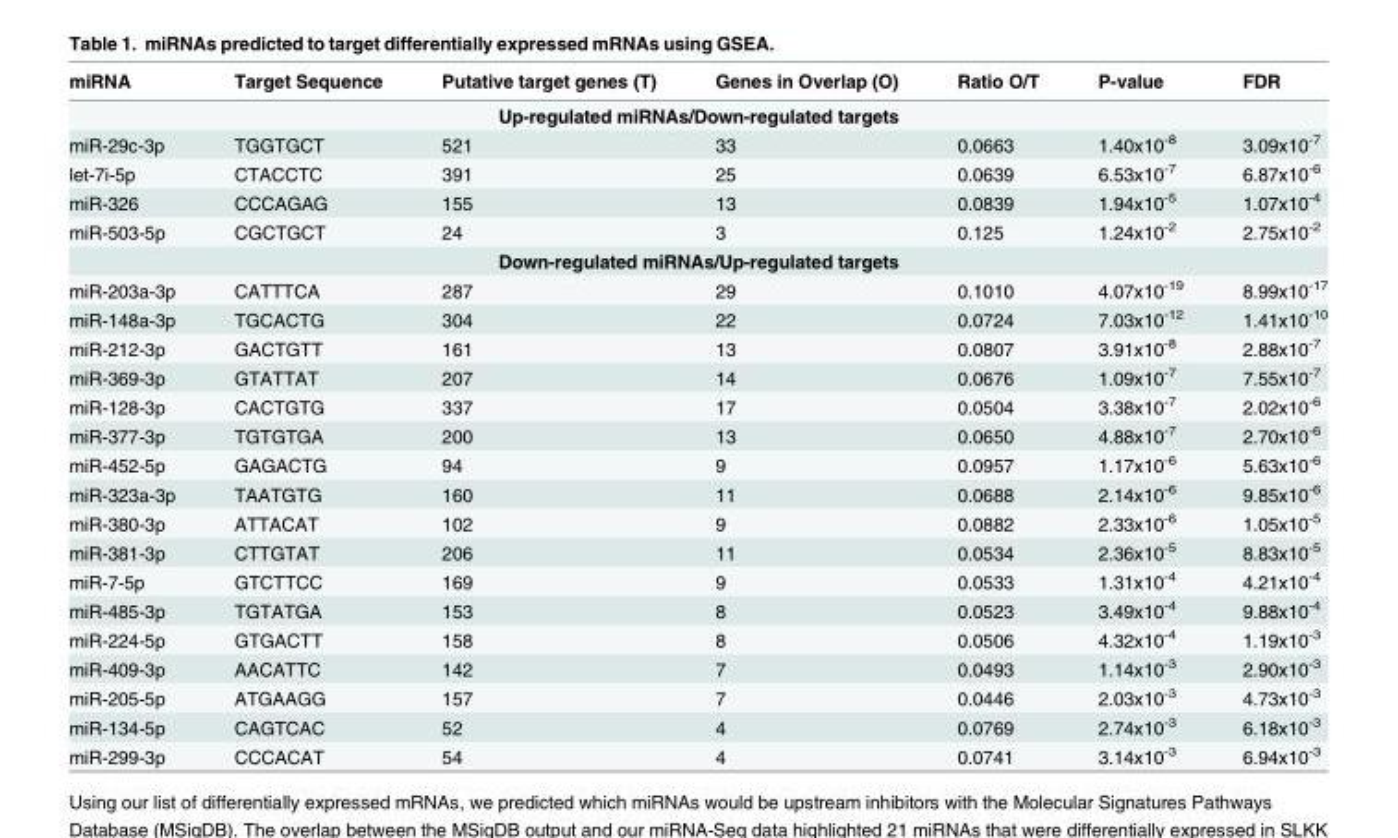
<table><thead><tr><td>miRNA</td><td>Target Sequence</td><td>Putative target genes (T)</td><td>Genes in Overlap (O)</td><td>Ratio O/T</td><td>P-value</td><td>FDR</td></tr></thead><tbody><tr><td colspan="7">Up-regulated miRNAs/Down-regulated targets</td></tr><tr><td>miR-29c-3p</td><td>TGGTGCT</td><td>521</td><td>33</td><td>0.0663</td><td>1.40x10<sup>-8</sup></td><td>3.09x10<sup>-7</sup></td></tr><tr><td>let-7i-5p</td><td>CTACCTC</td><td>391</td><td>25</td><td>0.0639</td><td>6.53x10<sup>-7</sup></td><td>6.87x10<sup>-6</sup></td></tr><tr><td>miR-326</td><td>CCCAGAG</td><td>155</td><td>13</td><td>0.0839</td><td>1.94x10<sup>-5</sup></td><td>1.07x10<sup>-4</sup></td></tr><tr><td>miR-503-5p</td><td>CGCTGCT</td><td>24</td><td>3</td><td>0.125</td><td>1.24x10<sup>-2</sup></td><td>2.75x10<sup>-2</sup></td></tr><tr><td colspan="7">Down-regulated miRNAs/Up-regulated targets</td></tr><tr><td>miR-203a-3p</td><td>CATTTCA</td><td>287</td><td>29</td><td>0.1010</td><td>4.07x10<sup>-19</sup></td><td>8.99x10<sup>-17</sup></td></tr><tr><td>miR-148a-3p</td><td>TGCACTG</td><td>304</td><td>22</td><td>0.0724</td><td>7.03x10<sup>-12</sup></td><td>1.41x10<sup>-10</sup></td></tr><tr><td>miR-212-3p</td><td>GACTGTT</td><td>161</td><td>13</td><td>0.0807</td><td>3.91x10<sup>-8</sup></td><td>2.88x10<sup>-7</sup></td></tr><tr><td>miR-369-3p</td><td>GTATTAT</td><td>207</td><td>14</td><td>0.0676</td><td>1.09x10<sup>-7</sup></td><td>7.55x10<sup>-7</sup></td></tr><tr><td>miR-128-3p</td><td>CACTGTG</td><td>337</td><td>17</td><td>0.0504</td><td>3.38x10<sup>-7</sup></td><td>2.02x10<sup>-6</sup></td></tr><tr><td>miR-377-3p</td><td>TGTGTGA</td><td>200</td><td>13</td><td>0.0650</td><td>4.88x10<sup>-7</sup></td><td>2.70x10<sup>-6</sup></td></tr><tr><td>miR-452-5p</td><td>GAGACTG</td><td>94</td><td>9</td><td>0.0957</td><td>1.17x10<sup>-6</sup></td><td>5.63x10<sup>-6</sup></td></tr><tr><td>miR-323a-3p</td><td>TAATGTG</td><td>160</td><td>11</td><td>0.0688</td><td>2.14x10<sup>-6</sup></td><td>9.85x10<sup>-6</sup></td></tr><tr><td>miR-380-3p</td><td>ATTACAT</td><td>102</td><td>9</td><td>0.0882</td><td>2.33x10<sup>-6</sup></td><td>1.05x10<sup>-5</sup></td></tr><tr><td>miR-381-3p</td><td>CTTGTAT</td><td>206</td><td>11</td><td>0.0534</td><td>2.36x10<sup>-5</sup></td><td>8.83x10<sup>-5</sup></td></tr><tr><td>miR-7-5p</td><td>GTCTTCC</td><td>169</td><td>9</td><td>0.0533</td><td>1.31x10<sup>-4</sup></td><td>4.21x10<sup>-4</sup></td></tr><tr><td>miR-485-3p</td><td>TGTATGA</td><td>153</td><td>8</td><td>0.0523</td><td>3.49x10<sup>-4</sup></td><td>9.88x10<sup>-4</sup></td></tr><tr><td>miR-224-5p</td><td>GTGACTT</td><td>158</td><td>8</td><td>0.0506</td><td>4.32x10<sup>-4</sup></td><td>1.19x10<sup>-3</sup></td></tr><tr><td>miR-409-3p</td><td>AACATTC</td><td>142</td><td>7</td><td>0.0493</td><td>1.14x10<sup>-3</sup></td><td>2.90x10<sup>-3</sup></td></tr><tr><td>miR-205-5p</td><td>ATGAAGG</td><td>157</td><td>7</td><td>0.0446</td><td>2.03x10<sup>-3</sup></td><td>4.73x10<sup>-3</sup></td></tr><tr><td>miR-134-5p</td><td>CAGTCAC</td><td>52</td><td>4</td><td>0.0769</td><td>2.74x10<sup>-3</sup></td><td>6.18x10<sup>-3</sup></td></tr><tr><td>miR-299-3p</td><td>CCCACAT</td><td>54</td><td>4</td><td>0.0741</td><td>3.14x10<sup>-3</sup></td><td>6.94x10<sup>-3</sup></td></tr></tbody></table>